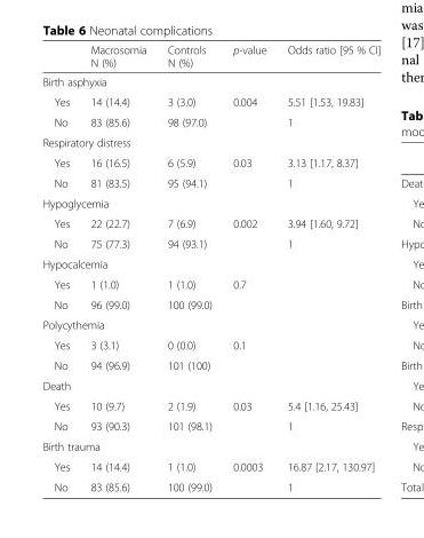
<table><thead><tr><td></td><td>Macrosomia N (%)</td><td>Controls N (%)</td><td>p-value</td><td>Odds ratio [95 % CI]</td></tr></thead><tbody><tr><td colspan="5">Birth asphyxia</td></tr><tr><td>Yes</td><td>14 (14.4)</td><td>3 (3.0)</td><td>0.004</td><td>5.51 [1.53, 19.83]</td></tr><tr><td>No</td><td>83 (85.6)</td><td>98 (97.0)</td><td></td><td>1</td></tr><tr><td colspan="5">Respiratory distress</td></tr><tr><td>Yes</td><td>16 (16.5)</td><td>6 (5.9)</td><td>0.03</td><td>3.13 [1.17, 8.37]</td></tr><tr><td>No</td><td>81 (83.5)</td><td>95 (94.1)</td><td></td><td>1</td></tr><tr><td colspan="5">Hypoglycemia</td></tr><tr><td>Yes</td><td>22 (22.7)</td><td>7 (6.9)</td><td>0.002</td><td>3.94 [1.60, 9.72]</td></tr><tr><td>No</td><td>75 (77.3)</td><td>94 (93.1)</td><td></td><td>1</td></tr><tr><td colspan="5">Hypocalcemia</td></tr><tr><td>Yes</td><td>1 (1.0)</td><td>1 (1.0)</td><td>0.7</td><td></td></tr><tr><td>No</td><td>96 (99.0)</td><td>100 (99.0)</td><td></td><td></td></tr><tr><td colspan="5">Polycythemia</td></tr><tr><td>Yes</td><td>3 (3.1)</td><td>0 (0.0)</td><td>0.1</td><td></td></tr><tr><td>No</td><td>94 (96.9)</td><td>101 (100)</td><td></td><td></td></tr><tr><td colspan="5">Death</td></tr><tr><td>Yes</td><td>10 (9.7)</td><td>2 (1.9)</td><td>0.03</td><td>5.4 [1.16, 25.43]</td></tr><tr><td>No</td><td>93 (90.3)</td><td>101 (98.1)</td><td></td><td>1</td></tr><tr><td colspan="5">Birth trauma</td></tr><tr><td>Yes</td><td>14 (14.4)</td><td>1 (1.0)</td><td>0.0003</td><td>16.87 [2.17, 130.97]</td></tr><tr><td>No</td><td>83 (85.6)</td><td>100 (99.0)</td><td></td><td>1</td></tr></tbody></table>